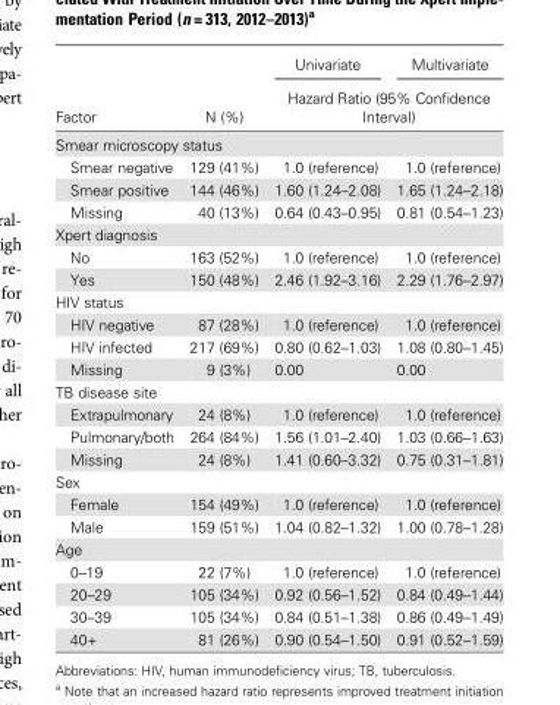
<table><thead><tr><td rowspan="2">Factor</td><td rowspan="2">N (%)</td><td>Univariate</td><td>Multivariate</td></tr><tr><td colspan="2">Hazard Ratio (95% Confidence Interval)</td></tr></thead><tbody><tr><td colspan="4">Smear microscopy status</td></tr><tr><td>Smear negative</td><td>129 (41%)</td><td>1.0 (reference)</td><td>1.0 (reference)</td></tr><tr><td>Smear positive</td><td>144 (46%)</td><td>1.60 (1.24–2.08)</td><td>1.65 (1.24–2.18)</td></tr><tr><td>Missing</td><td>40 (13%)</td><td>0.64 (0.43–0.95)</td><td>0.81 (0.54–1.23)</td></tr><tr><td colspan="4">Xpert diagnosis</td></tr><tr><td>No</td><td>163 (52%)</td><td>1.0 (reference)</td><td>1.0 (reference)</td></tr><tr><td>Yes</td><td>150 (48%)</td><td>2.46 (1.92–3.16)</td><td>2.29 (1.76–2.97)</td></tr><tr><td colspan="4">HIV status</td></tr><tr><td>HIV negative</td><td>87 (28%)</td><td>1.0 (reference)</td><td>1.0 (reference)</td></tr><tr><td>HIV infected</td><td>217 (69%)</td><td>0.80 (0.62–1.03)</td><td>1.08 (0.80–1.45)</td></tr><tr><td>Missing</td><td>9 (3%)</td><td>0.00</td><td>0.00</td></tr><tr><td colspan="4">TB disease site</td></tr><tr><td>Extrapulmonary</td><td>24 (8%)</td><td>1.0 (reference)</td><td>1.0 (reference)</td></tr><tr><td>Pulmonary/both</td><td>264 (84%)</td><td>1.56 (1.01–2.40)</td><td>1.03 (0.66–1.63)</td></tr><tr><td>Missing</td><td>24 (8%)</td><td>1.41 (0.60–3.32)</td><td>0.75 (0.31–1.81)</td></tr><tr><td colspan="4">Sex</td></tr><tr><td>Female</td><td>154 (49%)</td><td>1.0 (reference)</td><td>1.0 (reference)</td></tr><tr><td>Male</td><td>159 (51%)</td><td>1.04 (0.82–1.32)</td><td>1.00 (0.78–1.28)</td></tr><tr><td colspan="4">Age</td></tr><tr><td>0–19</td><td>22 (7%)</td><td>1.0 (reference)</td><td>1.0 (reference)</td></tr><tr><td>20–29</td><td>105 (34%)</td><td>0.92 (0.56–1.52)</td><td>0.84 (0.49–1.44)</td></tr><tr><td>30–39</td><td>105 (34%)</td><td>0.84 (0.51–1.38)</td><td>0.86 (0.49–1.49)</td></tr><tr><td>40+</td><td>81 (26%)</td><td>0.90 (0.54–1.50)</td><td>0.91 (0.52–1.59)</td></tr></tbody></table>